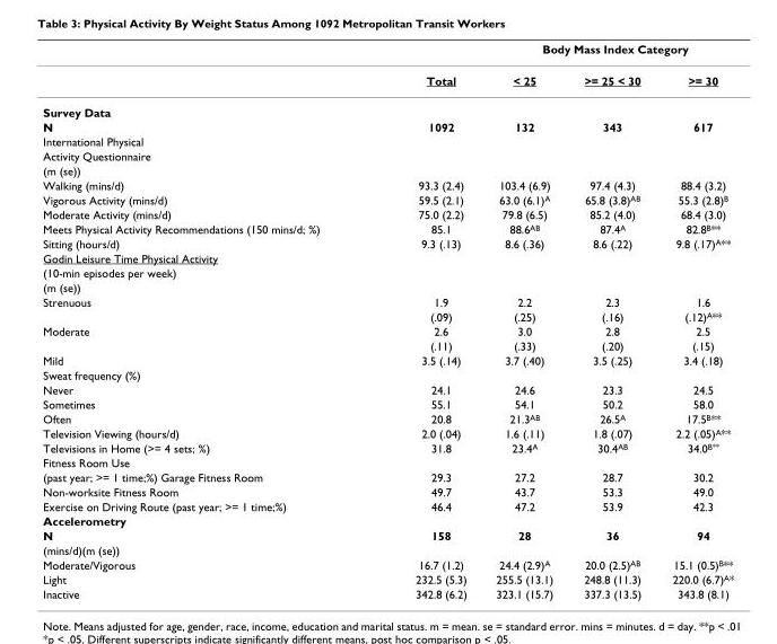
<table><thead><tr><td rowspan="2"></td><td rowspan="2">Total</td><td colspan="3">Body Mass Index Category</td></tr><tr><td>&lt; 25</td><td>&gt;= 25 &lt; 30</td><td>&gt;= 30</td></tr></thead><tbody><tr><td colspan="5">Survey Data</td></tr><tr><td>N</td><td>1092</td><td>132</td><td>343</td><td>617</td></tr><tr><td colspan="5">International Physical</td></tr><tr><td colspan="5">Activity Questionnaire</td></tr><tr><td colspan="5">(m (se))</td></tr><tr><td>Walking (mins/d)</td><td>93.3 (2.4)</td><td>103.4 (6.9)</td><td>97.4 (4.3)</td><td>88.4 (3.2)</td></tr><tr><td>Vigorous Activity (mins/d)</td><td>59.5 (2.1)</td><td>63.0 (6.1)<sup>A</sup></td><td>65.8 (3.8)<sup>AB</sup></td><td>55.3 (2.8)<sup>B</sup></td></tr><tr><td>Moderate Activity (mins/d)</td><td>75.0 (2.2)</td><td>79.8 (6.5)</td><td>85.2 (4.0)</td><td>68.4 (3.0)</td></tr><tr><td>Meets Physical Activity Recommendations (150 mins/d; %)</td><td>85.1</td><td>88.6<sup>AB</sup></td><td>87.4<sup>A</sup></td><td>82.8<sup>B</sup>**</td></tr><tr><td>Sitting (hours/d)</td><td>9.3 (.13)</td><td>8.6 (.36)</td><td>8.6 (.22)</td><td>9.8 (.17)<sup>A</sup>**</td></tr><tr><td colspan="5">Godin Leisure Time Physical Activity</td></tr><tr><td colspan="5">(10-min episodes per week)</td></tr><tr><td colspan="5">(m (se))</td></tr><tr><td rowspan="2">Strenuous</td><td>1.9</td><td>2.2</td><td>2.3</td><td>1.6</td></tr><tr><td>(.09)</td><td>(.25)</td><td>(.16)</td><td>(.12)<sup>A</sup>**</td></tr><tr><td rowspan="2">Moderate</td><td>2.6</td><td>3.0</td><td>2.8</td><td>2.5</td></tr><tr><td>(.11)</td><td>(.33)</td><td>(.20)</td><td>(.15)</td></tr><tr><td>Mild</td><td>3.5 (.14)</td><td>3.7 (.40)</td><td>3.5 (.25)</td><td>3.4 (.18)</td></tr><tr><td colspan="5">Sweat frequency (%)</td></tr><tr><td>Never</td><td>24.1</td><td>24.6</td><td>23.3</td><td>24.5</td></tr><tr><td>Sometimes</td><td>55.1</td><td>54.1</td><td>50.2</td><td>58.0</td></tr><tr><td>Often</td><td>20.8</td><td>21.3<sup>AB</sup></td><td>26.5<sup>A</sup></td><td>17.5<sup>B</sup>**</td></tr><tr><td>Television Viewing (hours/d)</td><td>2.0 (.04)</td><td>1.6 (.11)</td><td>1.8 (.07)</td><td>2.2 (.05)<sup>A</sup>**</td></tr><tr><td>Televisions in Home (&gt;= 4 sets; %)</td><td>31.8</td><td>23.4<sup>A</sup></td><td>30.4<sup>AB</sup></td><td>34.0<sup>B**</sup></td></tr><tr><td colspan="5">Fitness Room Use</td></tr><tr><td>(past year; &gt;= 1 time;%) Garage Fitness Room</td><td>29.3</td><td>27.2</td><td>28.7</td><td>30.2</td></tr><tr><td>Non-worksite Fitness Room</td><td>49.7</td><td>43.7</td><td>53.3</td><td>49.0</td></tr><tr><td>Exercise on Driving Route (past year; &gt;= 1 time;%)</td><td>46.4</td><td>47.2</td><td>53.9</td><td>42.3</td></tr><tr><td colspan="5">Accelerometry</td></tr><tr><td>N</td><td>158</td><td>28</td><td>36</td><td>94</td></tr><tr><td colspan="5">(mins/d)(m (se))</td></tr><tr><td>Moderate/Vigorous</td><td>16.7 (1.2)</td><td>24.4 (2.9)<sup>A</sup></td><td>20.0 (2.5)<sup>AB</sup></td><td>15.1 (0.5)<sup>B</sup>**</td></tr><tr><td>Light</td><td>232.5 (5.3)</td><td>255.5 (13.1)</td><td>248.8 (11.3)</td><td>220.0 (6.7)<sup>A</sup>*</td></tr><tr><td>Inactive</td><td>342.8 (6.2)</td><td>323.1 (15.7)</td><td>337.3 (13.5)</td><td>343.8 (8.1)</td></tr></tbody></table>